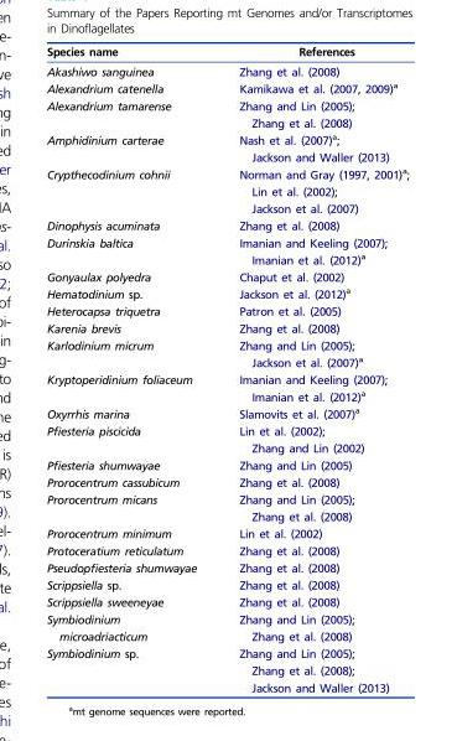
<table><thead><tr><td>Species name</td><td>References</td></tr></thead><tbody><tr><td>Akashiwo sanguinea</td><td>Zhang et al. (2008)</td></tr><tr><td>Alexandrium catenella</td><td>Kamikawa et al. (2007, 2009)<sup>a</sup></td></tr><tr><td>Alexandrium tamarense</td><td>Zhang and Lin (2005); Zhang et al. (2008)</td></tr><tr><td>Amphidinium carterae</td><td>Nash et al. (2007)<sup>a</sup>; Jackson and Waller (2013)</td></tr><tr><td>Crypthecodinium cohnii</td><td>Norman and Gray (1997, 2001)<sup>a</sup>; Lin et al. (2002); Jackson et al. (2007)</td></tr><tr><td>Dinophysis acuminata</td><td>Zhang et al. (2008)</td></tr><tr><td>Durinskia baltica</td><td>Imanian and Keeling (2007); Imanian et al. (2012)<sup>a</sup></td></tr><tr><td>Gonyaulax polyedra</td><td>Chaput et al. (2002)</td></tr><tr><td>Hematodinium sp.</td><td>Jackson et al. (2012)<sup>a</sup></td></tr><tr><td>Heterocapsa triquetra</td><td>Patron et al. (2005)</td></tr><tr><td>Karenia brevis</td><td>Zhang et al. (2008)</td></tr><tr><td>Karlodinium micrum</td><td>Zhang and Lin (2005); Jackson et al. (2007)<sup>a</sup></td></tr><tr><td>Kryptoperidinium foliaceum</td><td>Imanian and Keeling (2007); Imanian et al. (2012)<sup>a</sup></td></tr><tr><td>Oxyrrhis marina</td><td>Slamovits et al. (2007)<sup>a</sup></td></tr><tr><td>Pfiesteria piscicida</td><td>Lin et al. (2002); Zhang and Lin (2002)</td></tr><tr><td>Pfiesteria shumwayae</td><td>Zhang and Lin (2005)</td></tr><tr><td>Prorocentrum cassubicum</td><td>Zhang et al. (2008)</td></tr><tr><td>Prorocentrum micans</td><td>Zhang and Lin (2005); Zhang et al. (2008)</td></tr><tr><td>Prorocentrum minimum</td><td>Lin et al. (2002)</td></tr><tr><td>Protoceratium reticulatum</td><td>Zhang et al. (2008)</td></tr><tr><td>Pseudopfiesteria shumwayae</td><td>Zhang et al. (2008)</td></tr><tr><td>Scrippsiella sp.</td><td>Zhang et al. (2008)</td></tr><tr><td>Scrippsiella sweeneyae</td><td>Zhang et al. (2008)</td></tr><tr><td>Symbiodinium microadriacticum</td><td>Zhang and Lin (2005); Zhang et al. (2008)</td></tr><tr><td>Symbiodinium sp.</td><td>Zhang and Lin (2005); Zhang et al. (2008); Jackson and Waller (2013)</td></tr></tbody></table>